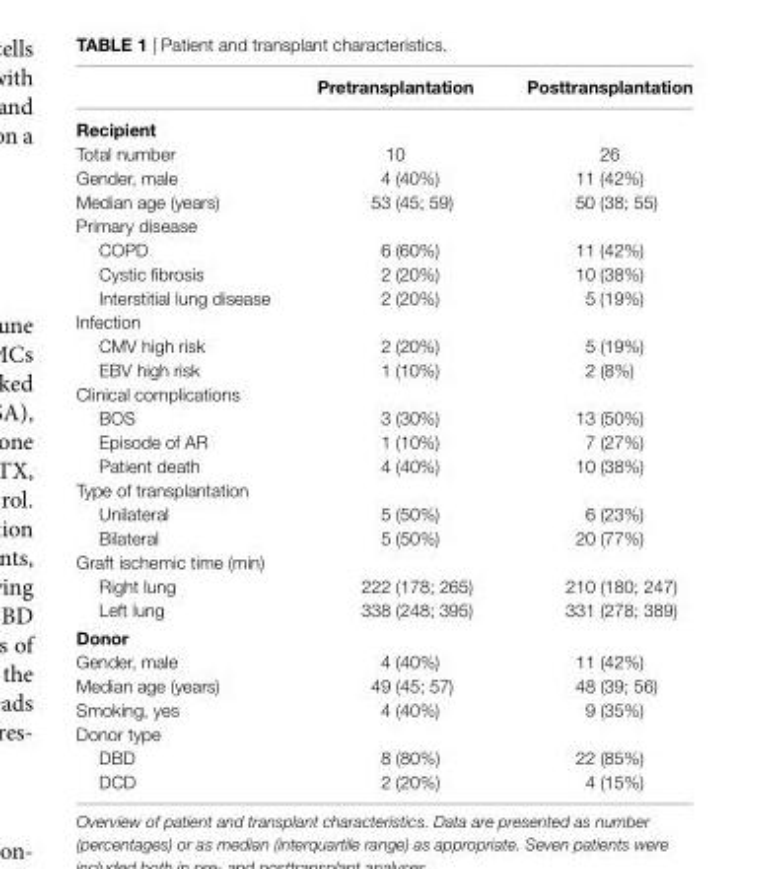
<table><thead><tr><td></td><td>Pretransplantation</td><td>Posttransplantation</td></tr></thead><tbody><tr><td colspan="3">recipient</td></tr><tr><td>Total number</td><td>10</td><td>26</td></tr><tr><td>Gender, male</td><td>4 (40%)</td><td>11 (42%)</td></tr><tr><td>Median age (years)</td><td>53 (45; 59)</td><td>50 (38; 55)</td></tr><tr><td colspan="3">Primary disease</td></tr><tr><td>COPD</td><td>6 (60%)</td><td>11 (42%)</td></tr><tr><td>Cystic fibrosis</td><td>2 (20%)</td><td>10 (38%)</td></tr><tr><td>Interstitial lung disease</td><td>2 (20%)</td><td>5 (19%)</td></tr><tr><td colspan="3">Infection</td></tr><tr><td>CMV high risk</td><td>2 (20%)</td><td>5 (19%)</td></tr><tr><td>EBV high risk</td><td>1 (10%)</td><td>2 (8%)</td></tr><tr><td colspan="3">Clinical complications</td></tr><tr><td>BOS</td><td>3 (30%)</td><td>13 (50%)</td></tr><tr><td>Episode of AR</td><td>1 (10%)</td><td>7 (27%)</td></tr><tr><td>Patient death</td><td>4 (40%)</td><td>10 (38%)</td></tr><tr><td colspan="3">Type of transplantation</td></tr><tr><td>Unilateral</td><td>5 (50%)</td><td>6 (23%)</td></tr><tr><td>Bilateral</td><td>5 (50%)</td><td>20 (77%)</td></tr><tr><td colspan="3">Graft ischemic time (min)</td></tr><tr><td>Right lung</td><td>222 (178; 265)</td><td>210 (180; 247)</td></tr><tr><td>Left lung</td><td>338 (248; 395)</td><td>331 (278; 389)</td></tr><tr><td colspan="3">Donor</td></tr><tr><td>Gender, male</td><td>4 (40%)</td><td>11 (42%)</td></tr><tr><td>Median age (years)</td><td>49 (45; 57)</td><td>48 (39; 56)</td></tr><tr><td>Smoking, yes</td><td>4 (40%)</td><td>9 (35%)</td></tr><tr><td colspan="3">Donor type</td></tr><tr><td>DBD</td><td>8 (80%)</td><td>22 (85%)</td></tr><tr><td>DCD</td><td>2 (20%)</td><td>4 (15%)</td></tr></tbody></table>